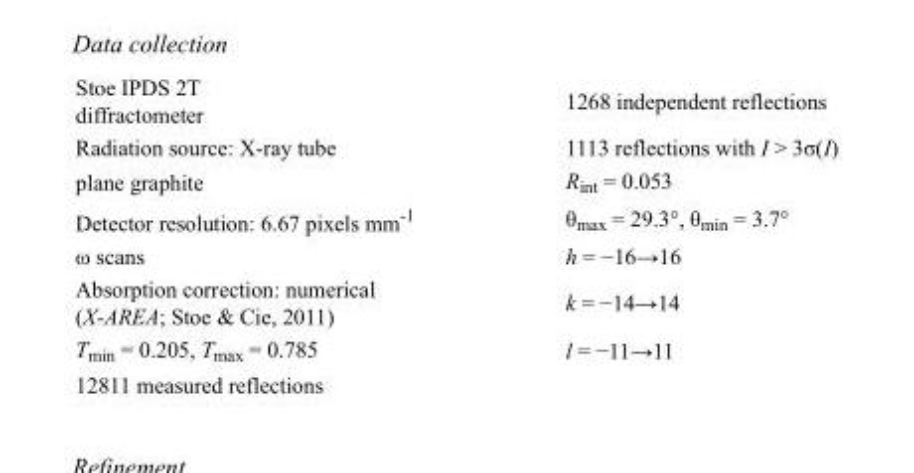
<table><tbody><tr><td>Stoe IPDS 2T diffractometer</td><td>1268 independent reflections</td></tr><tr><td>Radiation source: X-ray tube</td><td>1113 reflections with I &gt; 3σ(I)</td></tr><tr><td>plane graphite</td><td>R<sub>int</sub> = 0.053</td></tr><tr><td>Detector resolution: 6.67 pixels mm<sup>-1</sup></td><td>θ<sub>max</sub> = 29.3°, θ<sub>min</sub> = 3.7°</td></tr><tr><td>ω scans</td><td>h = −16→16</td></tr><tr><td>Absorption correction: numerical (X-AREA; Stoe &amp; Cie, 2011)</td><td>k = −14→14</td></tr><tr><td>T<sub>min</sub> = 0.205, T<sub>max</sub> = 0.785</td><td>l = −11→11</td></tr><tr><td>12811 measured reflections</td><td></td></tr></tbody></table>